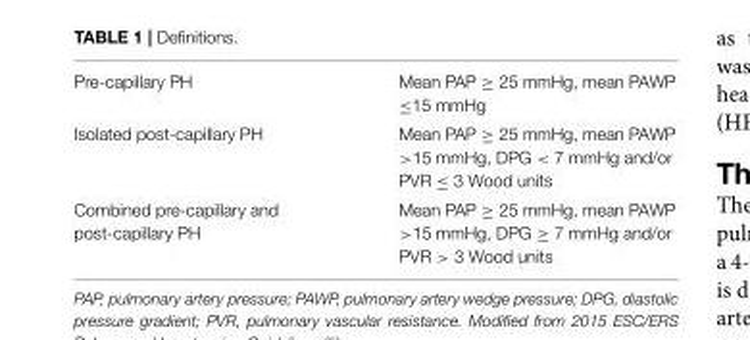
<table><tbody><tr><td>Pre-capillary PH</td><td>Mean PAP ≥ 25 mmHg, mean PAWP ≤15 mmHg</td></tr><tr><td>Isolated post-capillary PH</td><td>Mean PAP ≥ 25 mmHg, mean PAWP &gt;15 mmHg, DPG &lt; 7 mmHg and/or PVR ≤ 3 Wood units</td></tr><tr><td>Combined pre-capillary and post-capillary PH</td><td>Mean PAP ≥ 25 mmHg, mean PAWP &gt;15 mmHg, DPG ≥ 7 mmHg and/or PVR &gt; 3 Wood units</td></tr></tbody></table>